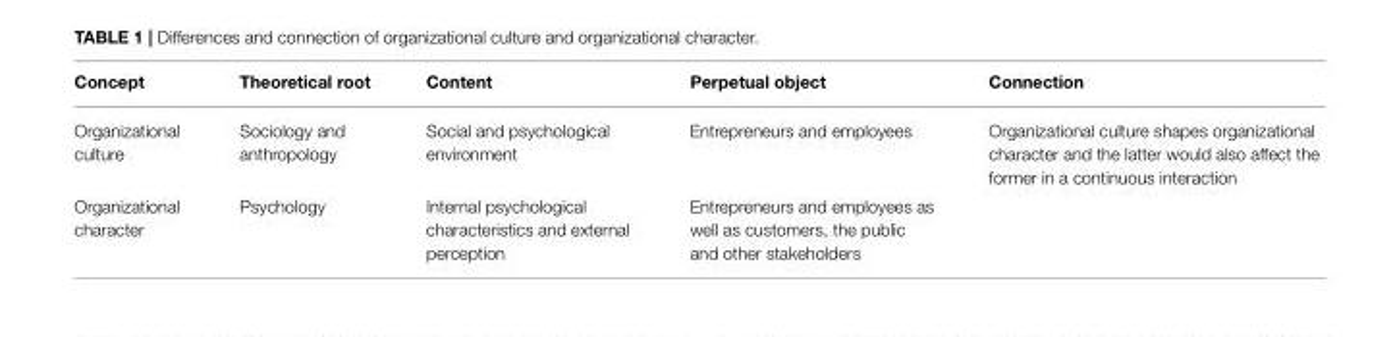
<table><thead><tr><td>Concept</td><td>Theoretical root</td><td>Content</td><td>Perpetual object</td><td>Connection</td></tr></thead><tbody><tr><td>Organizational culture</td><td>Sociology and anthropology</td><td>Social and psychological environment</td><td>Entrepreneurs and employees</td><td>Organizational culture shapes organizational character and the latter would also affect the former in a continuous interaction</td></tr><tr><td>Organizational character</td><td>Psychology</td><td>Internal psychological characteristics and external perception</td><td>Entrepreneurs and employees as well as customers, the public and other stakeholders</td><td></td></tr></tbody></table>